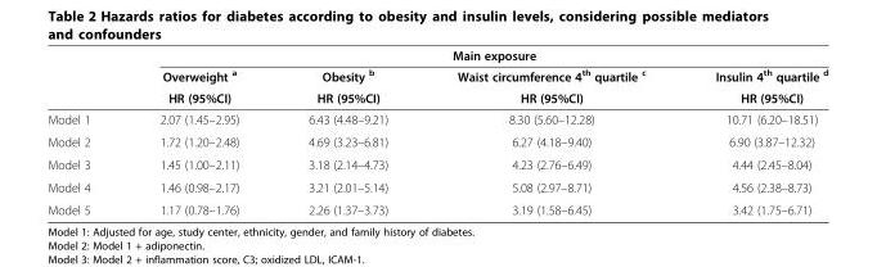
<table><thead><tr><td rowspan="3"></td><td colspan="4">Main exposure</td></tr><tr><td rowspan="2">Overweight <sup>a</sup> HR (95%CI)</td><td rowspan="2">Obesity <sup>b</sup> HR (95%CI)</td><td rowspan="2">Waist circumference 4<sup>th</sup> quartile <sup>c</sup> HR (95%CI)</td><td rowspan="2">Insulin 4<sup>th</sup> quartile <sup>d</sup> HR (95%CI)</td></tr><tr></tr></thead><tbody><tr><td>Model 1</td><td>2.07 (1.45–2.95)</td><td>6.43 (4.48–9.21)</td><td>8.30 (5.60–12.28)</td><td>10.71 (6.20–18.51)</td></tr><tr><td>Model 2</td><td>1.72 (1.20–2.48)</td><td>4.69 (3.23–6.81)</td><td>6.27 (4.18–9.40)</td><td>6.90 (3.87–12.32)</td></tr><tr><td>Model 3</td><td>1.45 (1.00–2.11)</td><td>3.18 (2.14–4.73)</td><td>4.23 (2.76–6.49)</td><td>4.44 (2.45–8.04)</td></tr><tr><td>Model 4</td><td>1.46 (0.98–2.17)</td><td>3.21 (2.01–5.14)</td><td>5.08 (2.97–8.71)</td><td>4.56 (2.38–8.73)</td></tr><tr><td>Model 5</td><td>1.17 (0.78–1.76)</td><td>2.26 (1.37–3.73)</td><td>3.19 (1.58–6.45)</td><td>3.42 (1.75–6.71)</td></tr></tbody></table>